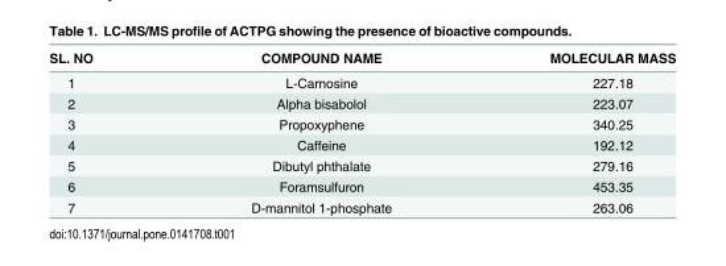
<table><thead><tr><td>SL. NO</td><td>COMPOUND NAME</td><td>MOLECULAR MASS</td></tr></thead><tbody><tr><td>1</td><td>L-Carnosine</td><td>227.18</td></tr><tr><td>2</td><td>Alpha bisabolol</td><td>223.07</td></tr><tr><td>3</td><td>Propoxyphene</td><td>340.25</td></tr><tr><td>4</td><td>Caffeine</td><td>192.12</td></tr><tr><td>5</td><td>Dibutyl phthalate</td><td>279.16</td></tr><tr><td>6</td><td>Foramsulfuron</td><td>453.35</td></tr><tr><td>7</td><td>D-mannitol 1-phosphate</td><td>263.06</td></tr></tbody></table>